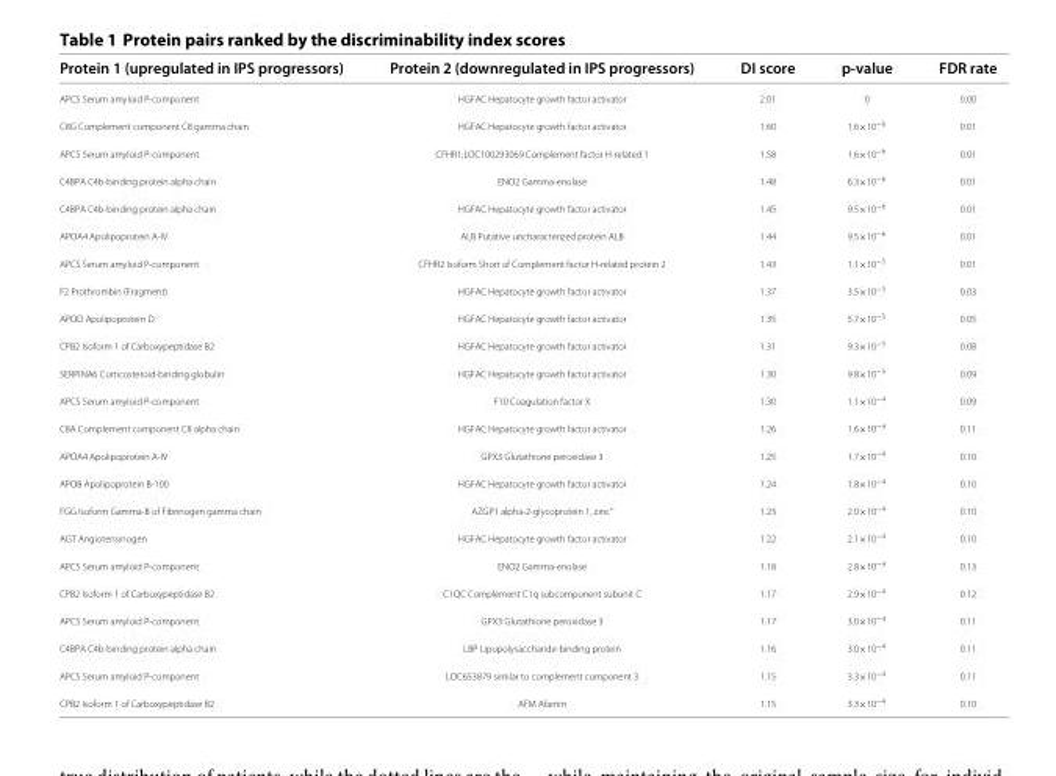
<table><thead><tr><td>Protein 1 (upregulated in IPS progressors)</td><td>Protein 2 (downregulated in IPS progressors)</td><td>DI score</td><td>p-value</td><td>FDR rate</td></tr></thead><tbody><tr><td>APCS Serum amyloid P-component</td><td>HGFAC Hepatocyte growth factor activator</td><td>2.01</td><td>0</td><td>0.00</td></tr><tr><td>C8G Complement component C8 gamma chain</td><td>HGFAC Hepatocyte growth factor activator</td><td>1.60</td><td>1.6×10<sup>−6</sup></td><td>0.01</td></tr><tr><td>APCS Serum amyloid P-component</td><td>CFHR1;LOC100293069 Complement factor H-related 1</td><td>1.58</td><td>1.6×10<sup>−6</sup></td><td>0.01</td></tr><tr><td>C4BPA C4b-binding protein alpha chain</td><td>ENO2 Gamma-enolase</td><td>1.48</td><td>6.3×10<sup>−6</sup></td><td>0.01</td></tr><tr><td>C4BPA C4b-binding protein alpha chain</td><td>HGFAC Hepatocyte growth factor activator</td><td>1.45</td><td>9.5×10<sup>−6</sup></td><td>0.01</td></tr><tr><td>APOA4 Apolipoprotein A-IV</td><td>ALB Putative uncharacterized protein ALB</td><td>1.44</td><td>9.5×10<sup>−6</sup></td><td>0.01</td></tr><tr><td>APCS Serum amyloid P-component</td><td>CFHR2 Isoform Short of Complement factor H-related protein 2</td><td>1.43</td><td>1.1×10−5</td><td>0.01</td></tr><tr><td>F2 Prothrombin (Fragment)</td><td>HGFAC Hepatocyte growth factor activator</td><td>1.37</td><td>3.5×10−5</td><td>0.03</td></tr><tr><td>APOD Apolipoprotein D</td><td>HGFAC Hepatocyte growth factor activator</td><td>1.35</td><td>5.7×10−5</td><td>0.05</td></tr><tr><td>CPB2 Isoform 1 of Carboxypeptidase B2</td><td>HGFAC Hepatocyte growth factor activator</td><td>1.31</td><td>9.3×10−5</td><td>0.08</td></tr><tr><td>SERPINA6 Corticosteroid-binding globulin</td><td>HGFAC Hepatocyte growth factor activator</td><td>1.30</td><td>9.8×10−5</td><td>0.09</td></tr><tr><td>APCS Serum amyloid P-component</td><td>F10 Coagulation factor X</td><td>1.30</td><td>1.1×10<sup>−4</sup></td><td>0.09</td></tr><tr><td>C8A Complement component C8 alpha chain</td><td>HGFAC Hepatocyte growth factor activator</td><td>1.26</td><td>1.6×10<sup>−4</sup></td><td>0.11</td></tr><tr><td>APOA4 Apolipoprotein A-IV</td><td>GPX3 Glutathione peroxidase 3</td><td>1.25</td><td>1.7×10<sup>−4</sup></td><td>0.10</td></tr><tr><td>APOB Apolipoprotein B-100</td><td>HGFAC Hepatocyte growth factor activator</td><td>1.24</td><td>1.8×10<sup>−4</sup></td><td>0.10</td></tr><tr><td>FGG Isoform Gamma-B of Fibrinogen gamma chain</td><td>AZGP1 alpha-2-glycoprotein 1, zinc”</td><td>1.23</td><td>2.0×10<sup>−4</sup></td><td>0.10</td></tr><tr><td>AGT Angiotensinogen</td><td>HGFAC Hepatocyte growth factor activator</td><td>1.22</td><td>2.1×10<sup>−4</sup></td><td>0.10</td></tr><tr><td>APCS Serum amyloid P-component</td><td>ENO2 Gamma-enolase</td><td>1.18</td><td>2.8×10<sup>−4</sup></td><td>0.13</td></tr><tr><td>CPB2 Isoform 1 of Carboxypeptidase B2</td><td>C1QC Complement C1q subcomponent subunit C</td><td>1.17</td><td>2.9×10<sup>−4</sup></td><td>0.12</td></tr><tr><td>APCS Serum amyloid P-component</td><td>GPX3 Glutathione peroxidase 3</td><td>1.17</td><td>3.0×10<sup>−4</sup></td><td>0.11</td></tr><tr><td>C4BPA C4b-binding protein alpha chain</td><td>LBP Lipopolysaccharide-binding protein</td><td>1.16</td><td>3.0×10<sup>−4</sup></td><td>0.11</td></tr><tr><td>APCS Serum amyloid P-component</td><td>LOC653879 similar to complement component 3</td><td>1.15</td><td>3.3×10<sup>−4</sup></td><td>0.11</td></tr><tr><td>CPB2 Isoform 1 of Carboxypeptidase B2</td><td>AFM Afamin</td><td>1.15</td><td>3.3×10<sup>−4</sup></td><td>0.10</td></tr></tbody></table>